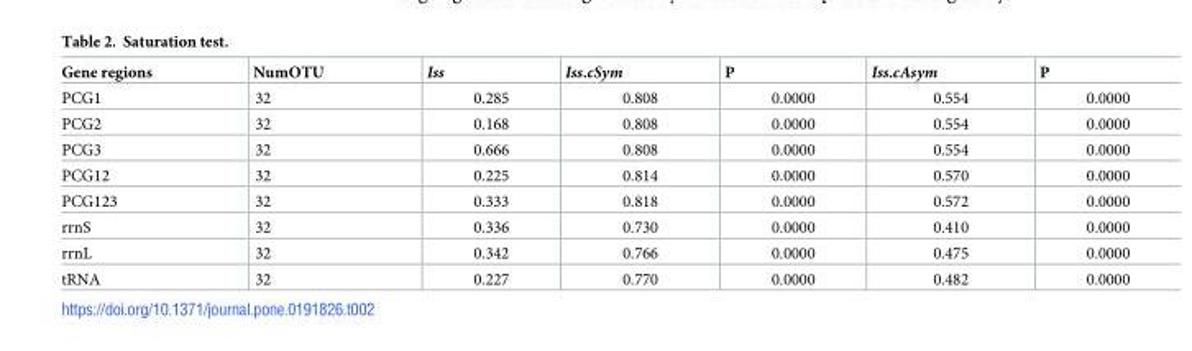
<table><thead><tr><td>Gene regions</td><td>NumOTU</td><td>Iss</td><td>Iss.cSym</td><td>P</td><td>Iss.cAsym</td><td>P</td></tr></thead><tbody><tr><td>PCG1</td><td>32</td><td>0.285</td><td>0.808</td><td>0.0000</td><td>0.554</td><td>0.0000</td></tr><tr><td>PCG2</td><td>32</td><td>0.168</td><td>0.808</td><td>0.0000</td><td>0.554</td><td>0.0000</td></tr><tr><td>PCG3</td><td>32</td><td>0.666</td><td>0.808</td><td>0.0000</td><td>0.554</td><td>0.0000</td></tr><tr><td>PCG12</td><td>32</td><td>0.225</td><td>0.814</td><td>0.0000</td><td>0.570</td><td>0.0000</td></tr><tr><td>PCG123</td><td>32</td><td>0.333</td><td>0.818</td><td>0.0000</td><td>0.572</td><td>0.0000</td></tr><tr><td>rrnS</td><td>32</td><td>0.336</td><td>0.730</td><td>0.0000</td><td>0.410</td><td>0.0000</td></tr><tr><td>rrnL</td><td>32</td><td>0.342</td><td>0.766</td><td>0.0000</td><td>0.475</td><td>0.0000</td></tr><tr><td>tRNA</td><td>32</td><td>0.227</td><td>0.770</td><td>0.0000</td><td>0.482</td><td>0.0000</td></tr></tbody></table>